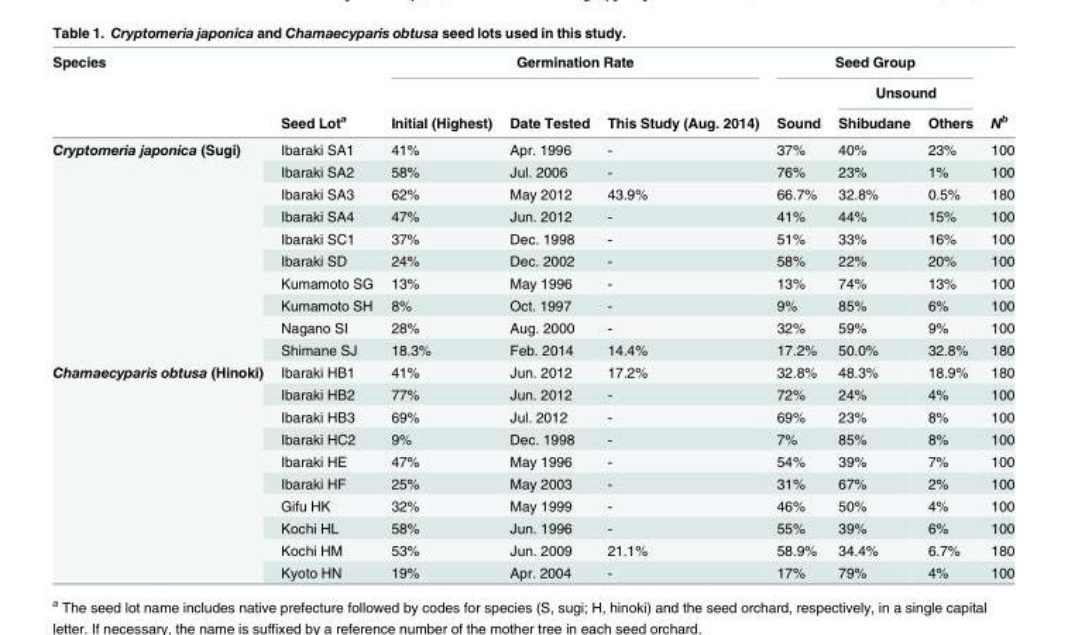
<table><thead><tr><td rowspan="3">Species</td><td rowspan="3">Seed Lot<sup>a</sup></td><td colspan="3">Germination Rate</td><td colspan="3">Seed Group</td><td rowspan="3">N<sup>b</sup></td></tr><tr><td rowspan="2">Initial (Highest)</td><td rowspan="2">Date Tested</td><td rowspan="2">This Study (Aug. 2014)</td><td rowspan="2">Sound</td><td colspan="2">Unsound</td></tr><tr><td>Shibudane</td><td>Others</td></tr></thead><tbody><tr><td rowspan="10">Cryptomeria japonica (Sugi)</td><td>Ibaraki SA1</td><td>41%</td><td>Apr. 1996</td><td>-</td><td>37%</td><td>40%</td><td>23%</td><td>100</td></tr><tr><td>Ibaraki SA2</td><td>58%</td><td>Jul. 2006</td><td>-</td><td>76%</td><td>23%</td><td>1%</td><td>100</td></tr><tr><td>Ibaraki SA3</td><td>62%</td><td>May 2012</td><td>43.9%</td><td>66.7%</td><td>32.8%</td><td>0.5%</td><td>180</td></tr><tr><td>Ibaraki SA4</td><td>47%</td><td>Jun. 2012</td><td>-</td><td>41%</td><td>44%</td><td>15%</td><td>100</td></tr><tr><td>Ibaraki SC1</td><td>37%</td><td>Dec. 1998</td><td>-</td><td>51%</td><td>33%</td><td>16%</td><td>100</td></tr><tr><td>Ibaraki SD</td><td>24%</td><td>Dec. 2002</td><td>-</td><td>58%</td><td>22%</td><td>20%</td><td>100</td></tr><tr><td>Kumamoto SG</td><td>13%</td><td>May 1996</td><td>-</td><td>13%</td><td>74%</td><td>13%</td><td>100</td></tr><tr><td>Kumamoto SH</td><td>8%</td><td>Oct. 1997</td><td>-</td><td>9%</td><td>85%</td><td>6%</td><td>100</td></tr><tr><td>Nagano SI</td><td>28%</td><td>Aug. 2000</td><td>-</td><td>32%</td><td>59%</td><td>9%</td><td>100</td></tr><tr><td>Shimane SJ</td><td>18.3%</td><td>Feb. 2014</td><td>14.4%</td><td>17.2%</td><td>50.0%</td><td>32.8%</td><td>180</td></tr><tr><td rowspan="10">Chamaecyparis obtusa (Hinoki)</td><td>Ibaraki HB1</td><td>41%</td><td>Jun. 2012</td><td>17.2%</td><td>32.8%</td><td>48.3%</td><td>18.9%</td><td>180</td></tr><tr><td>Ibaraki HB2</td><td>77%</td><td>Jun. 2012</td><td>-</td><td>72%</td><td>24%</td><td>4%</td><td>100</td></tr><tr><td>Ibaraki HB3</td><td>69%</td><td>Jul. 2012</td><td>-</td><td>69%</td><td>23%</td><td>8%</td><td>100</td></tr><tr><td>Ibaraki HC2</td><td>9%</td><td>Dec. 1998</td><td>-</td><td>7%</td><td>85%</td><td>8%</td><td>100</td></tr><tr><td>Ibaraki HE</td><td>47%</td><td>May 1996</td><td>-</td><td>54%</td><td>39%</td><td>7%</td><td>100</td></tr><tr><td>Ibaraki HF</td><td>25%</td><td>May 2003</td><td>-</td><td>31%</td><td>67%</td><td>2%</td><td>100</td></tr><tr><td>Gifu HK</td><td>32%</td><td>May 1999</td><td>-</td><td>46%</td><td>50%</td><td>4%</td><td>100</td></tr><tr><td>Kochi HL</td><td>58%</td><td>Jun. 1996</td><td>-</td><td>55%</td><td>39%</td><td>6%</td><td>100</td></tr><tr><td>Kochi HM</td><td>53%</td><td>Jun. 2009</td><td>21.1%</td><td>58.9%</td><td>34.4%</td><td>6.7%</td><td>180</td></tr><tr><td>Kyoto HN</td><td>19%</td><td>Apr. 2004</td><td>-</td><td>17%</td><td>79%</td><td>4%</td><td>100</td></tr></tbody></table>